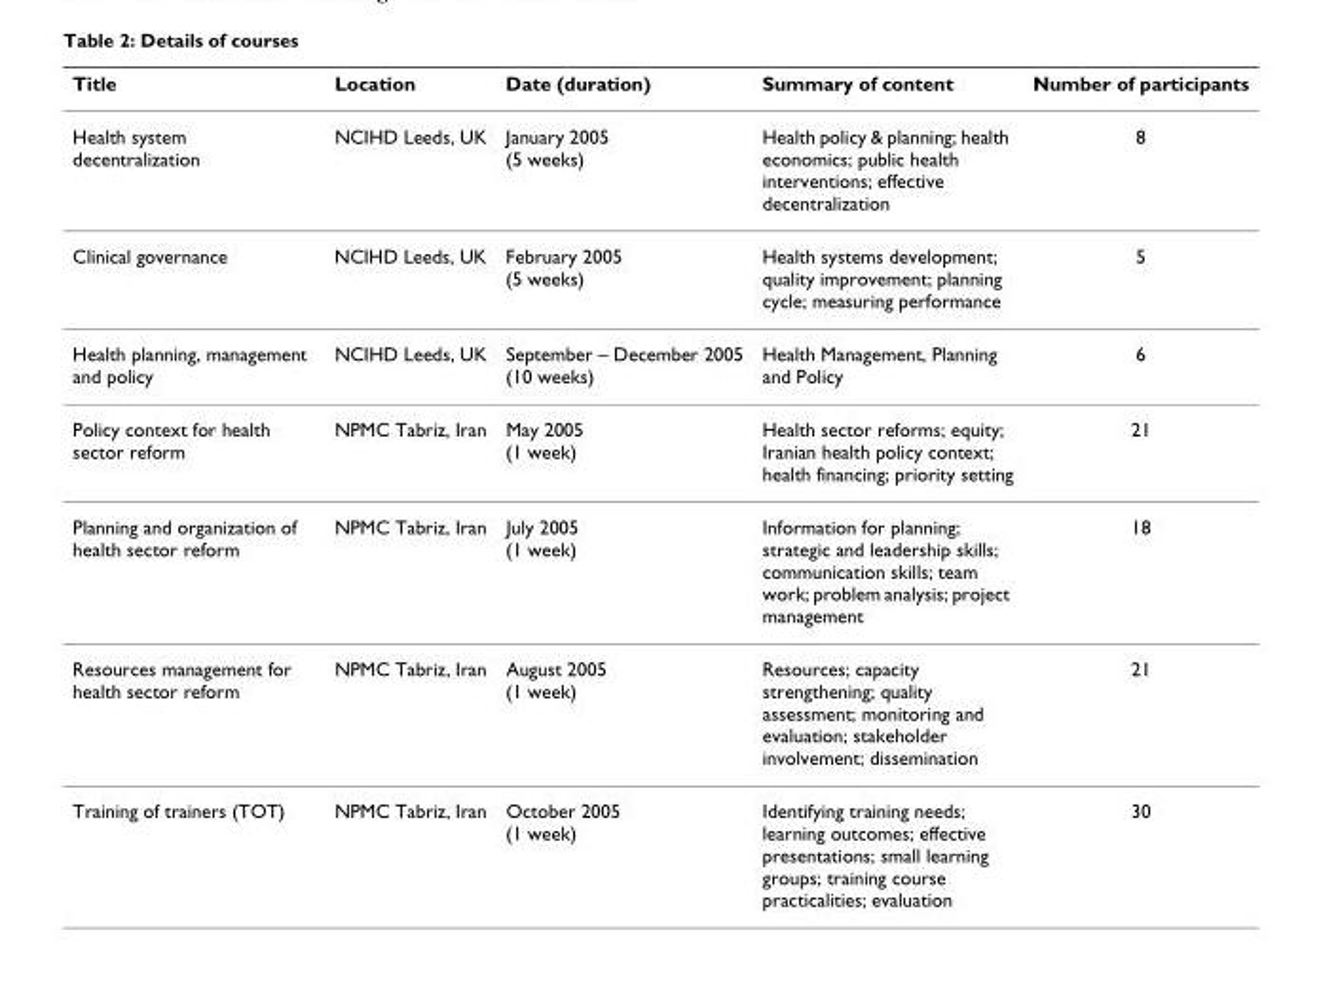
<table><thead><tr><td>Title</td><td>Location</td><td>Date (duration)</td><td>Summary of content</td><td>Number of participants</td></tr></thead><tbody><tr><td>Health system decentralization</td><td>NCIHD Leeds, UK</td><td>January 2005 (5 weeks)</td><td>Health policy &amp; planning; health economics; public health interventions; effective decentralization</td><td>8</td></tr><tr><td>Clinical governance</td><td>NCIHD Leeds, UK</td><td>February 2005 (5 weeks)</td><td>Health systems development; quality improvement; planning cycle; measuring performance</td><td>5</td></tr><tr><td>Health planning, management and policy</td><td>NCIHD Leeds, UK</td><td>September – December 2005 (10 weeks)</td><td>Health Management, Planning and Policy</td><td>6</td></tr><tr><td>Policy context for health sector reform</td><td>NPMC Tabriz, Iran</td><td>May 2005 (1 week)</td><td>Health sector reforms; equity; Iranian health policy context; health financing; priority setting</td><td>21</td></tr><tr><td>Planning and organization of health sector reform</td><td>NPMC Tabriz, Iran</td><td>July 2005 (1 week)</td><td>Information for planning; strategic and leadership skills; communication skills; team work; problem analysis; project management</td><td>18</td></tr><tr><td>Resources management for health sector reform</td><td>NPMC Tabriz, Iran</td><td>August 2005 (1 week)</td><td>Resources; capacity strengthening; quality assessment; monitoring and evaluation; stakeholder involvement; dissemination</td><td>21</td></tr><tr><td>Training of trainers (TOT)</td><td>NPMC Tabriz, Iran</td><td>October 2005 (1 week)</td><td>Identifying training needs; learning outcomes; effective presentations; small learning groups; training course practicalities; evaluation</td><td>30</td></tr></tbody></table>